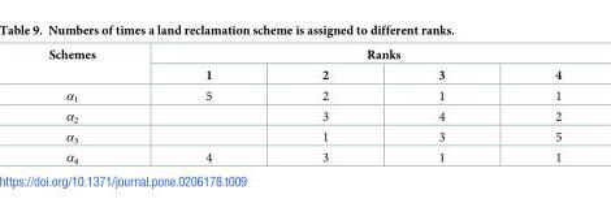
<table><thead><tr><td rowspan="2">Schemes</td><td colspan="4">Ranks</td></tr><tr><td>1</td><td>2</td><td>3</td><td>4</td></tr></thead><tbody><tr><td>α<sub>1</sub></td><td>5</td><td>2</td><td>1</td><td>1</td></tr><tr><td>α<sub>2</sub></td><td></td><td>3</td><td>4</td><td>2</td></tr><tr><td>α<sub>3</sub></td><td></td><td>1</td><td>3</td><td>5</td></tr><tr><td>α<sub>4</sub></td><td>4</td><td>3</td><td>1</td><td>1</td></tr></tbody></table>